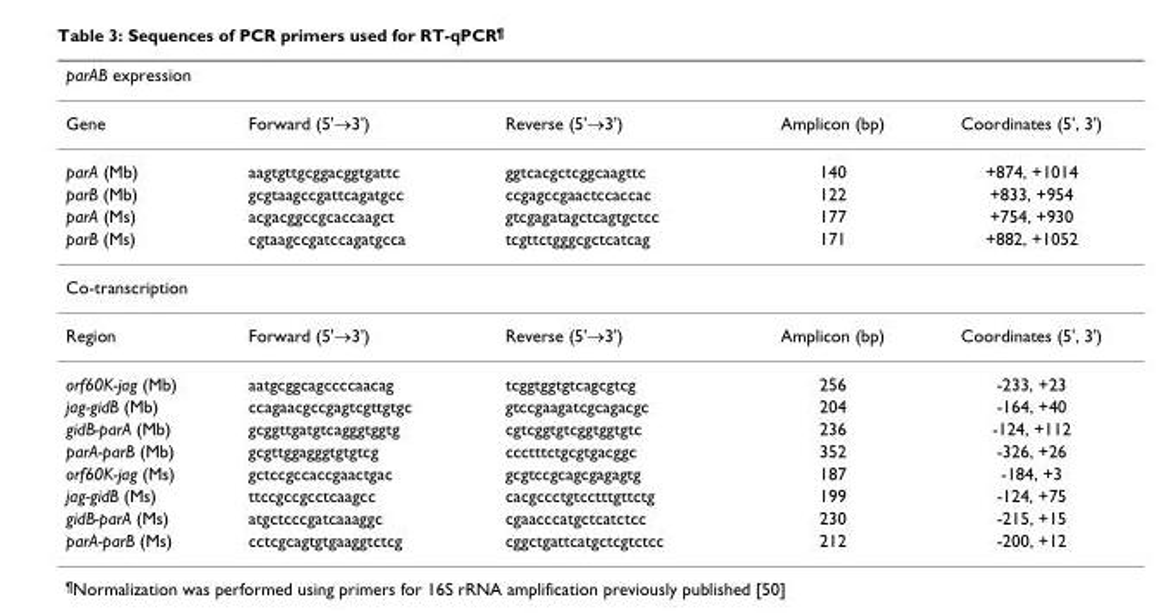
<table><thead><tr><td colspan="5">parAB expression</td></tr><tr><td>Gene</td><td>Forward (5&#x27;→3&#x27;)</td><td>Reverse (5&#x27;→3&#x27;)</td><td>Amplicon (bp)</td><td>Coordinates (5&#x27;, 3&#x27;)</td></tr></thead><tbody><tr><td>parA (Mb)</td><td>aagtgttgcggacggtgattc</td><td>ggtcacgctcggcaagttc</td><td>140</td><td>+874, +1014</td></tr><tr><td>parB (Mb)</td><td>gcgtaagccgattcagatgcc</td><td>ccgagccgaactccaccac</td><td>122</td><td>+833, +954</td></tr><tr><td>parA (Ms)</td><td>acgacggccgcaccaagct</td><td>gtcgagatagctcagtgctcc</td><td>177</td><td>+754, +930</td></tr><tr><td>parB (Ms)</td><td>cgtaagccgatccagatgcca</td><td>tcgttctgggcgctcatcag</td><td>171</td><td>+882, +1052</td></tr><tr><td colspan="5">Co-transcription</td></tr><tr><td>Region</td><td>Forward (5&#x27;→3&#x27;)</td><td>Reverse (5&#x27;→3&#x27;)</td><td>Amplicon (bp)</td><td>Coordinates (5&#x27;, 3&#x27;)</td></tr><tr><td>orf60K-jag (Mb)</td><td>aatgcggcagccccaacag</td><td>tcggtggtgtcagcgtcg</td><td>256</td><td>-233, +23</td></tr><tr><td>jag-gidB (Mb)</td><td>ccagaacgccgagtcgttgtgc</td><td>gtccgaagatcgcagacgc</td><td>204</td><td>-164, +40</td></tr><tr><td>gidB-parA (Mb)</td><td>gcggttgatgtcagggtggtg</td><td>cgtcggtgtcggtggtgtc</td><td>236</td><td>-124, +112</td></tr><tr><td>parA-parB (Mb)</td><td>gcgttggagggtgtgtcg</td><td>ccctttctgcgtgacggc</td><td>352</td><td>-326, +26</td></tr><tr><td>orf60K-jag (Ms)</td><td>gctccgccaccgaactgac</td><td>gcgtccgcagcgagagtg</td><td>187</td><td>-184, +3</td></tr><tr><td>jag-gidB (Ms)</td><td>ttccgccgcctcaagcc</td><td>cacgccctgtcctttgttctg</td><td>199</td><td>-124, +75</td></tr><tr><td>gidB-parA (Ms)</td><td>atgctcccgatcaaaggc</td><td>cgaacccatgctcatctcc</td><td>230</td><td>-215, +15</td></tr><tr><td>parA-parB (Ms)</td><td>cctcgcagtgtgaaggtctcg</td><td>cggctgattcatgctcgtctcc</td><td>212</td><td>-200, +12</td></tr></tbody></table>